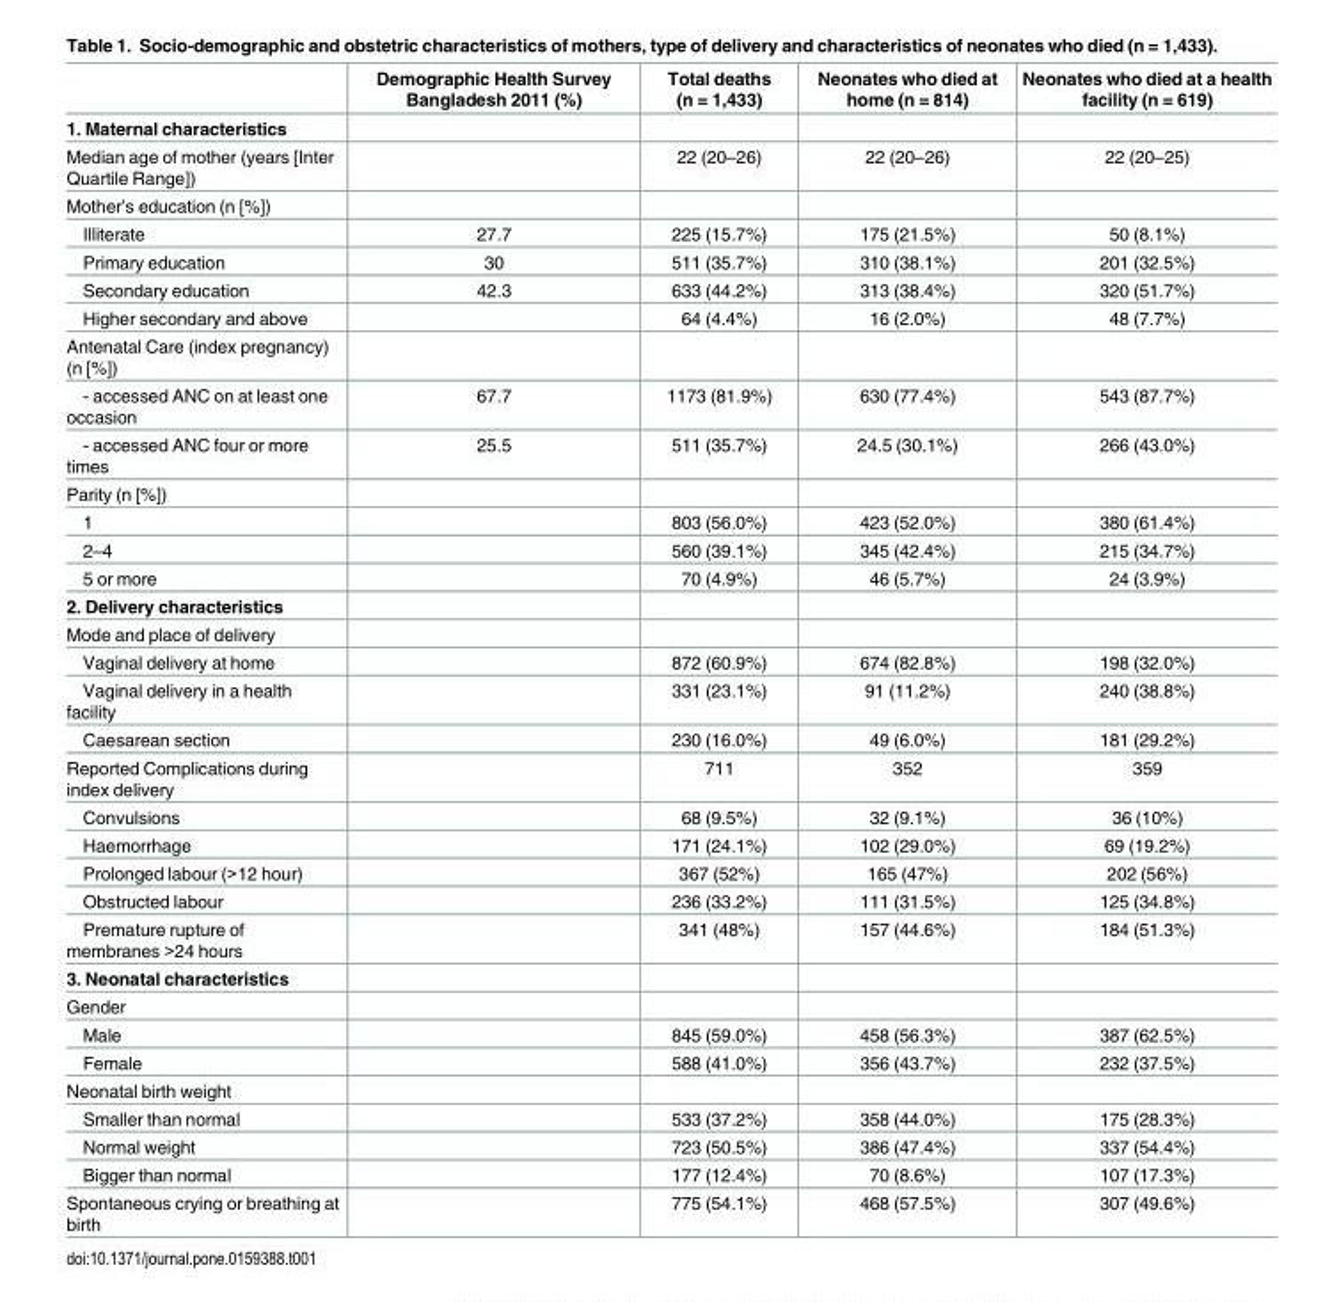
<table><thead><tr><td></td><td>Demographic Health Survey Bangladesh 2011 (%)</td><td>Total deaths (n = 1,433)</td><td>Neonates who died at home (n = 814)</td><td>Neonates who died at a health facility (n = 619)</td></tr></thead><tbody><tr><td colspan="5">1. Maternal characteristics</td></tr><tr><td>Median age of mother (years [Inter Quartile Range])</td><td></td><td>22 (20–26)</td><td>22 (20–26)</td><td>22 (20–25)</td></tr><tr><td colspan="5">Mother’s education (n [%])</td></tr><tr><td>Illiterate</td><td>27.7</td><td>225 (15.7%)</td><td>175 (21.5%)</td><td>50 (8.1%)</td></tr><tr><td>Primary education</td><td>30</td><td>511 (35.7%)</td><td>310 (38.1%)</td><td>201 (32.5%)</td></tr><tr><td>Secondary education</td><td>42.3</td><td>633 (44.2%)</td><td>313 (38.4%)</td><td>320 (51.7%)</td></tr><tr><td>Higher secondary and above</td><td></td><td>64 (4.4%)</td><td>16 (2.0%)</td><td>48 (7.7%)</td></tr><tr><td colspan="5">Antenatal Care (index pregnancy) (n [%])</td></tr><tr><td>- accessed ANC on at least one occasion</td><td>67.7</td><td>1173 (81.9%)</td><td>630 (77.4%)</td><td>543 (87.7%)</td></tr><tr><td>- accessed ANC four or more times</td><td>25.5</td><td>511 (35.7%)</td><td>24.5 (30.1%)</td><td>266 (43.0%)</td></tr><tr><td colspan="5">Parity (n [%])</td></tr><tr><td>1</td><td></td><td>803 (56.0%)</td><td>423 (52.0%)</td><td>380 (61.4%)</td></tr><tr><td>2–4</td><td></td><td>560 (39.1%)</td><td>345 (42.4%)</td><td>215 (34.7%)</td></tr><tr><td>5 or more</td><td></td><td>70 (4.9%)</td><td>46 (5.7%)</td><td>24 (3.9%)</td></tr><tr><td colspan="5">2. Delivery characteristics</td></tr><tr><td colspan="5">Mode and place of delivery</td></tr><tr><td>Vaginal delivery at home</td><td></td><td>872 (60.9%)</td><td>674 (82.8%)</td><td>198 (32.0%)</td></tr><tr><td>Vaginal delivery in a health facility</td><td></td><td>331 (23.1%)</td><td>91 (11.2%)</td><td>240 (38.8%)</td></tr><tr><td>Caesarean section</td><td></td><td>230 (16.0%)</td><td>49 (6.0%)</td><td>181 (29.2%)</td></tr><tr><td>Reported Complications during index delivery</td><td></td><td>711</td><td>352</td><td>359</td></tr><tr><td>Convulsions</td><td></td><td>68 (9.5%)</td><td>32 (9.1%)</td><td>36 (10%)</td></tr><tr><td>Haemorrhage</td><td></td><td>171 (24.1%)</td><td>102 (29.0%)</td><td>69 (19.2%)</td></tr><tr><td>Prolonged labour (&gt;12 hour)</td><td></td><td>367 (52%)</td><td>165 (47%)</td><td>202 (56%)</td></tr><tr><td>Obstructed labour</td><td></td><td>236 (33.2%)</td><td>111 (31.5%)</td><td>125 (34.8%)</td></tr><tr><td>Premature rupture of membranes &gt;24 hours</td><td></td><td>341 (48%)</td><td>157 (44.6%)</td><td>184 (51.3%)</td></tr><tr><td colspan="5">3. Neonatal characteristics</td></tr><tr><td colspan="5">Gender</td></tr><tr><td>Male</td><td></td><td>845 (59.0%)</td><td>458 (56.3%)</td><td>387 (62.5%)</td></tr><tr><td>Female</td><td></td><td>588 (41.0%)</td><td>356 (43.7%)</td><td>232 (37.5%)</td></tr><tr><td colspan="5">Neonatal birth weight</td></tr><tr><td>Smaller than normal</td><td></td><td>533 (37.2%)</td><td>358 (44.0%)</td><td>175 (28.3%)</td></tr><tr><td>Normal weight</td><td></td><td>723 (50.5%)</td><td>386 (47.4%)</td><td>337 (54.4%)</td></tr><tr><td>Bigger than normal</td><td></td><td>177 (12.4%)</td><td>70 (8.6%)</td><td>107 (17.3%)</td></tr><tr><td>Spontaneous crying or breathing at birth</td><td></td><td>775 (54.1%)</td><td>468 (57.5%)</td><td>307 (49.6%)</td></tr></tbody></table>